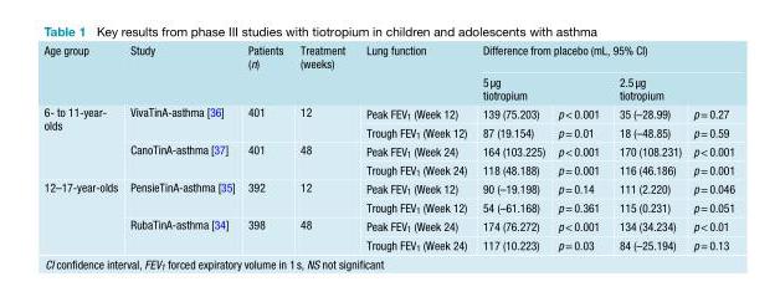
<table><thead><tr><td rowspan="2">Age group</td><td rowspan="2">Study</td><td rowspan="2">Patients (n)</td><td rowspan="2">Treatment (weeks)</td><td rowspan="2">Lung function</td><td colspan="4">Difference from placebo (mL, 95% CI)</td></tr><tr><td>5µg tiotropium</td><td></td><td>2.5µg tiotropium</td><td></td></tr></thead><tbody><tr><td rowspan="4">6- to 11-year- olds</td><td rowspan="2">VivaTinA-asthma [36]</td><td rowspan="2">401</td><td rowspan="2">12</td><td>Peak FEV<sub>1</sub> (Week 12)</td><td>139 (75.203)</td><td>p&lt; 0.001</td><td>35 (–28.99)</td><td>p= 0.27</td></tr><tr><td>Trough FEV<sub>1</sub> (Week 12)</td><td>87 (19.154)</td><td>p= 0.01</td><td>18 (–48.85)</td><td>p= 0.59</td></tr><tr><td rowspan="2">CanoTinA-asthma [37]</td><td rowspan="2">401</td><td rowspan="2">48</td><td>Peak FEV<sub>1</sub> (Week 24)</td><td>164 (103.225)</td><td>p&lt; 0.001</td><td>170 (108.231)</td><td>p&lt; 0.001</td></tr><tr><td>Trough FEV<sub>1</sub> (Week 24)</td><td>118 (48.188)</td><td>p= 0.001</td><td>116 (46.186)</td><td>p= 0.001</td></tr><tr><td rowspan="4">12–17-year-olds</td><td rowspan="2">PensieTinA-asthma [35]</td><td rowspan="2">392</td><td rowspan="2">12</td><td>Peak FEV<sub>1</sub> (Week 12)</td><td>90 (–19.198)</td><td>p= 0.14</td><td>111 (2.220)</td><td>p= 0.046</td></tr><tr><td>Trough FEV<sub>1</sub> (Week 12)</td><td>54 (–61.168)</td><td>p= 0.361</td><td>115 (0.231)</td><td>p= 0.051</td></tr><tr><td rowspan="2">RubaTinA-asthma [34]</td><td rowspan="2">398</td><td rowspan="2">48</td><td>Peak FEV<sub>1</sub> (Week 24)</td><td>174 (76.272)</td><td>p&lt; 0.001</td><td>134 (34.234)</td><td>p&lt; 0.01</td></tr><tr><td>Trough FEV<sub>1</sub> (Week 24)</td><td>117 (10.223)</td><td>p= 0.03</td><td>84 (–25.194)</td><td>p= 0.13</td></tr></tbody></table>